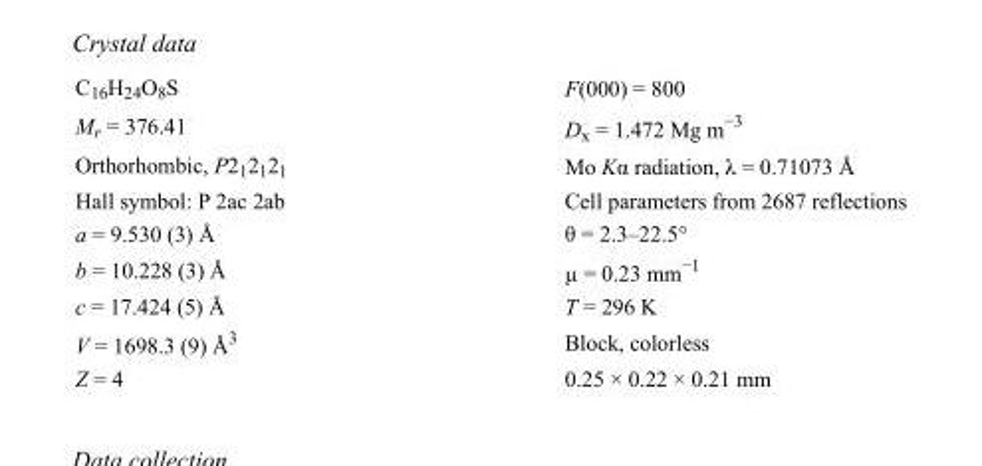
<table><tbody><tr><td>C<sub>16</sub>H<sub>24</sub>O<sub>8</sub>S</td><td>F(000) = 800</td></tr><tr><td>M<sub>r</sub> = 376.41</td><td>D<sub>x</sub> = 1.472 Mg m<sup>−3</sup></td></tr><tr><td>Orthorhombic, P2<sub>1</sub>2<sub>1</sub>2<sub>1</sub></td><td>Mo Kα radiation, λ = 0.71073 Å</td></tr><tr><td>Hall symbol: P 2ac 2ab</td><td>Cell parameters from 2687 reflections</td></tr><tr><td>a = 9.530 (3) Å</td><td>θ = 2.3–22.5°</td></tr><tr><td>b = 10.228 (3) Å</td><td>µ = 0.23 mm<sup>−1</sup></td></tr><tr><td>c = 17.424 (5) Å</td><td>T = 296 K</td></tr><tr><td>V = 1698.3 (9) Å<sup>3</sup></td><td>Block, colorless</td></tr><tr><td>Z = 4</td><td>0.25 × 0.22 × 0.21 mm</td></tr></tbody></table>